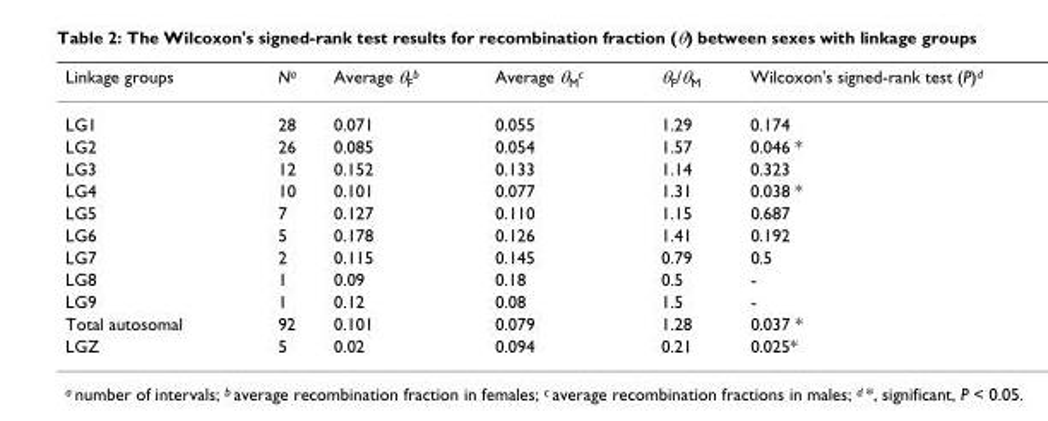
<table><thead><tr><td>Linkage groups</td><td>N<sup>a</sup></td><td>Average θ<sub>F</sub><sup>b</sup></td><td>Average θ<sub>M</sub><sup>c</sup></td><td>θ<sub>F</sub>/θ<sub>M</sub></td><td>Wilcoxon&#x27;s signed-rank test (P)<sup>d</sup></td></tr></thead><tbody><tr><td>LG1</td><td>28</td><td>0.071</td><td>0.055</td><td>1.29</td><td>0.174</td></tr><tr><td>LG2</td><td>26</td><td>0.085</td><td>0.054</td><td>1.57</td><td>0.046 *</td></tr><tr><td>LG3</td><td>12</td><td>0.152</td><td>0.133</td><td>1.14</td><td>0.323</td></tr><tr><td>LG4</td><td>10</td><td>0.101</td><td>0.077</td><td>1.31</td><td>0.038 *</td></tr><tr><td>LG5</td><td>7</td><td>0.127</td><td>0.110</td><td>1.15</td><td>0.687</td></tr><tr><td>LG6</td><td>5</td><td>0.178</td><td>0.126</td><td>1.41</td><td>0.192</td></tr><tr><td>LG7</td><td>2</td><td>0.115</td><td>0.145</td><td>0.79</td><td>0.5</td></tr><tr><td>LG8</td><td>1</td><td>0.09</td><td>0.18</td><td>0.5</td><td>-</td></tr><tr><td>LG9</td><td>1</td><td>0.12</td><td>0.08</td><td>1.5</td><td>-</td></tr><tr><td>Total autosomal</td><td>92</td><td>0.101</td><td>0.079</td><td>1.28</td><td>0.037 *</td></tr><tr><td>LGZ</td><td>5</td><td>0.02</td><td>0.094</td><td>0.21</td><td>0.025*</td></tr></tbody></table>